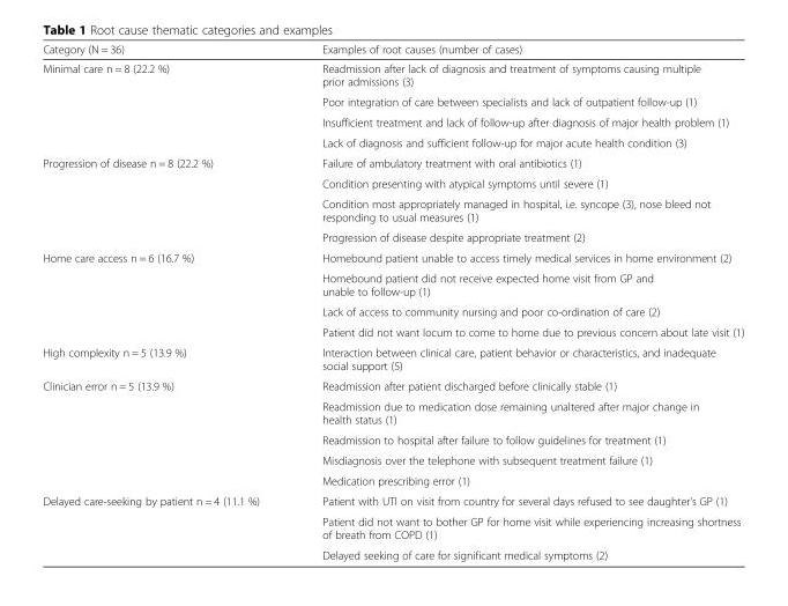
<table><thead><tr><td>Category (N = 36)</td><td>Examples of root causes (number of cases)</td></tr></thead><tbody><tr><td rowspan="4">Minimal care n = 8 (22.2 %)</td><td>Readmission after lack of diagnosis and treatment of symptoms causing multiple prior admissions (3)</td></tr><tr><td>Poor integration of care between specialists and lack of outpatient follow-up (1)</td></tr><tr><td>Insufficient treatment and lack of follow-up after diagnosis of major health problem (1)</td></tr><tr><td>Lack of diagnosis and sufficient follow-up for major acute health condition (3)</td></tr><tr><td rowspan="4">Progression of disease n = 8 (22.2 %)</td><td>Failure of ambulatory treatment with oral antibiotics (1)</td></tr><tr><td>Condition presenting with atypical symptoms until severe (1)</td></tr><tr><td>Condition most appropriately managed in hospital, i.e. syncope (3), nose bleed not responding to usual measures (1)</td></tr><tr><td>Progression of disease despite appropriate treatment (2)</td></tr><tr><td rowspan="4">Home care access n = 6 (16.7 %)</td><td>Homebound patient unable to access timely medical services in home environment (2)</td></tr><tr><td>Homebound patient did not receive expected home visit from GP and unable to follow-up (1)</td></tr><tr><td>Lack of access to community nursing and poor co-ordination of care (2)</td></tr><tr><td>Patient did not want locum to come to home due to previous concern about late visit (1)</td></tr><tr><td>High complexity n = 5 (13.9 %)</td><td>Interaction between clinical care, patient behavior or characteristics, and inadequate social support (5)</td></tr><tr><td rowspan="5">Clinician error n = 5 (13.9 %)</td><td>Readmission after patient discharged before clinically stable (1)</td></tr><tr><td>Readmission due to medication dose remaining unaltered after major change in health status (1)</td></tr><tr><td>Readmission to hospital after failure to follow guidelines for treatment (1)</td></tr><tr><td>Misdiagnosis over the telephone with subsequent treatment failure (1)</td></tr><tr><td>Medication prescribing error (1)</td></tr><tr><td rowspan="3">Delayed care-seeking by patient n = 4 (11.1 %)</td><td>Patient with UTI on visit from country for several days refused to see daughter&#x27;s GP (1)</td></tr><tr><td>Patient did not want to bother GP for home visit while experiencing increasing shortness of breath from COPD (1)</td></tr><tr><td>Delayed seeking of care for significant medical symptoms (2)</td></tr></tbody></table>